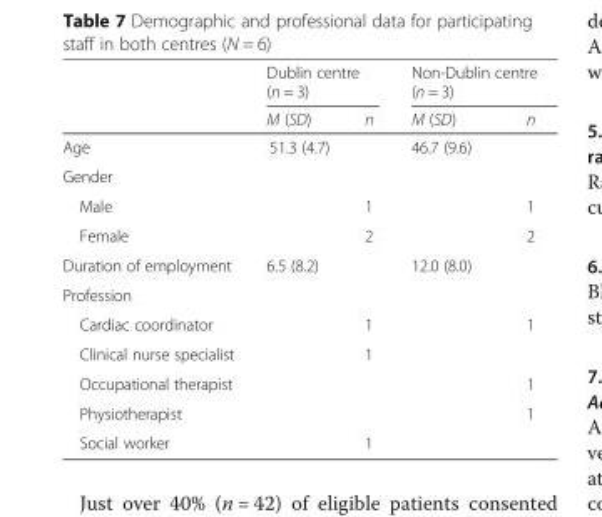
<table><thead><tr><td rowspan="2"></td><td colspan="2">Dublin centre (n = 3)</td><td colspan="2">Non-Dublin centre (n = 3)</td></tr><tr><td>M (SD)</td><td>n</td><td>M (SD)</td><td>n</td></tr></thead><tbody><tr><td>Age</td><td>51.3 (4.7)</td><td></td><td>46.7 (9.6)</td><td></td></tr><tr><td colspan="5">Gender</td></tr><tr><td>Male</td><td></td><td>1</td><td></td><td>1</td></tr><tr><td>Female</td><td></td><td>2</td><td></td><td>2</td></tr><tr><td>Duration of employment</td><td>6.5 (8.2)</td><td></td><td>12.0 (8.0)</td><td></td></tr><tr><td colspan="5">Profession</td></tr><tr><td>Cardiac coordinator</td><td></td><td>1</td><td></td><td>1</td></tr><tr><td>Clinical nurse specialist</td><td></td><td>1</td><td></td><td></td></tr><tr><td>Occupational therapist</td><td></td><td></td><td></td><td>1</td></tr><tr><td>Physiotherapist</td><td></td><td></td><td></td><td>1</td></tr><tr><td>Social worker</td><td></td><td>1</td><td></td><td></td></tr></tbody></table>